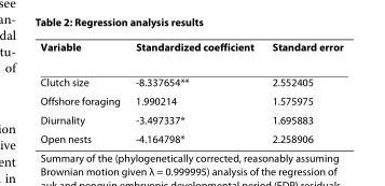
<table><thead><tr><td>Variable</td><td>Standardized coefficient</td><td>Standard error</td></tr></thead><tbody><tr><td>Clutch size</td><td>-8.337654**</td><td>2.552405</td></tr><tr><td>Offshore foraging</td><td>1.990214</td><td>1.575975</td></tr><tr><td>Diurnality</td><td>-3.497337*</td><td>1.695883</td></tr><tr><td>Open nests</td><td>-4.164798*</td><td>2.258906</td></tr></tbody></table>